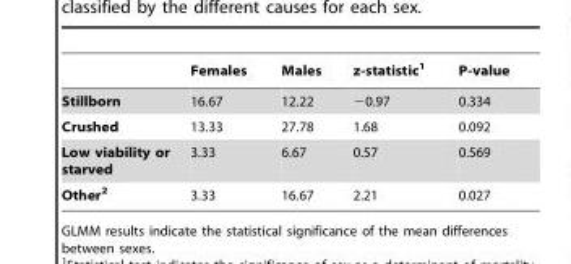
<table><thead><tr><td></td><td>Females</td><td>Males</td><td>z-statistic<sup>1</sup></td><td>P-value</td></tr></thead><tbody><tr><td>Stillborn</td><td>16.67</td><td>12.22</td><td>−0.97</td><td>0.334</td></tr><tr><td>Crushed</td><td>13.33</td><td>27.78</td><td>1.68</td><td>0.092</td></tr><tr><td>Low viability or starved</td><td>3.33</td><td>6.67</td><td>0.57</td><td>0.569</td></tr><tr><td>Other2</td><td>3.33</td><td>16.67</td><td>2.21</td><td>0.027</td></tr></tbody></table>